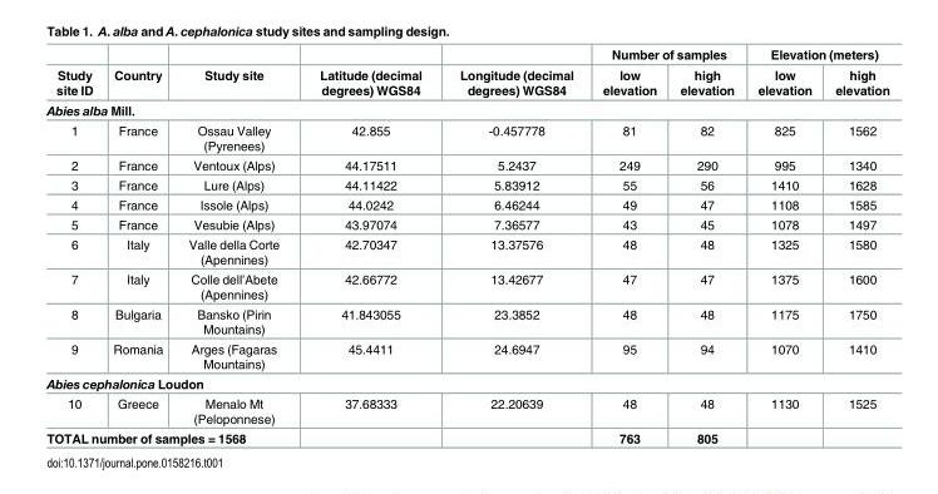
<table><thead><tr><td rowspan="2">Study site ID</td><td rowspan="2">Country</td><td rowspan="2">Study site</td><td rowspan="2">Latitude (decimal degrees) WGS84</td><td rowspan="2">Longitude (decimal degrees) WGS84</td><td colspan="2">Number of samples</td><td colspan="2">Elevation (meters)</td></tr><tr><td>low elevation</td><td>high elevation</td><td>low elevation</td><td>high elevation</td></tr></thead><tbody><tr><td colspan="9">Abies alba Mill.</td></tr><tr><td>1</td><td>France</td><td>Ossau Valley (Pyrenees)</td><td>42.855</td><td>-0.457778</td><td>81</td><td>82</td><td>825</td><td>1562</td></tr><tr><td>2</td><td>France</td><td>Ventoux (Alps)</td><td>44.17511</td><td>5.2437</td><td>249</td><td>290</td><td>995</td><td>1340</td></tr><tr><td>3</td><td>France</td><td>Lure (Alps)</td><td>44.11422</td><td>5.83912</td><td>55</td><td>56</td><td>1410</td><td>1628</td></tr><tr><td>4</td><td>France</td><td>Issole (Alps)</td><td>44.0242</td><td>6.46244</td><td>49</td><td>47</td><td>1108</td><td>1585</td></tr><tr><td>5</td><td>France</td><td>Vesubie (Alps)</td><td>43.97074</td><td>7.36577</td><td>43</td><td>45</td><td>1078</td><td>1497</td></tr><tr><td>6</td><td>Italy</td><td>Valle della Corte (Apennines)</td><td>42.70347</td><td>13.37576</td><td>48</td><td>48</td><td>1325</td><td>1580</td></tr><tr><td>7</td><td>Italy</td><td>Colle dell’Abete (Apennines)</td><td>42.66772</td><td>13.42677</td><td>47</td><td>47</td><td>1375</td><td>1600</td></tr><tr><td>8</td><td>Bulgaria</td><td>Bansko (Pirin Mountains)</td><td>41.843055</td><td>23.3852</td><td>48</td><td>48</td><td>1175</td><td>1750</td></tr><tr><td>9</td><td>Romania</td><td>Arges (Fagaras Mountains)</td><td>45.4411</td><td>24.6947</td><td>95</td><td>94</td><td>1070</td><td>1410</td></tr><tr><td colspan="9">Abies cephalonica Loudon</td></tr><tr><td>10</td><td>Greece</td><td>Menalo Mt (Peloponnese)</td><td>37.68333</td><td>22.20639</td><td>48</td><td>48</td><td>1130</td><td>1525</td></tr><tr><td colspan="3">TOTAL number of samples = 1568</td><td></td><td></td><td>763</td><td>805</td><td></td><td></td></tr></tbody></table>